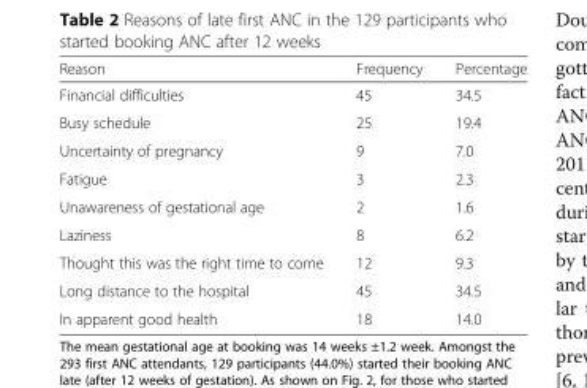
<table><thead><tr><td>Reason</td><td>Frequency</td><td>Percentage</td></tr></thead><tbody><tr><td>Financial difficulties</td><td>45</td><td>34.5</td></tr><tr><td>Busy schedule</td><td>25</td><td>19.4</td></tr><tr><td>Uncertainty of pregnancy</td><td>9</td><td>7.0</td></tr><tr><td>Fatigue</td><td>3</td><td>2.3</td></tr><tr><td>Unawareness of gestational age</td><td>2</td><td>1.6</td></tr><tr><td>Laziness</td><td>8</td><td>6.2</td></tr><tr><td>Thought this was the right time to come</td><td>12</td><td>9.3</td></tr><tr><td>Long distance to the hospital</td><td>45</td><td>34.5</td></tr><tr><td>In apparent good health</td><td>18</td><td>14.0</td></tr></tbody></table>